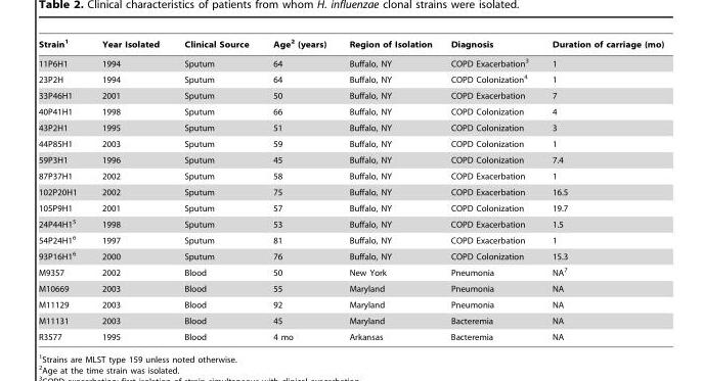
<table><thead><tr><td>Strain<sup>1</sup></td><td>Year Isolated</td><td>Clinical Source</td><td>Age<sup>2</sup> (years)</td><td>Region of Isolation</td><td>Diagnosis</td><td>Duration of carriage (mo)</td></tr></thead><tbody><tr><td>11P6H1</td><td>1994</td><td>Sputum</td><td>64</td><td>Buffalo, NY</td><td>COPD Exacerbation<sup>3</sup></td><td>1</td></tr><tr><td>23P2H</td><td>1994</td><td>Sputum</td><td>64</td><td>Buffalo, NY</td><td>COPD Colonization<sup>4</sup></td><td>1</td></tr><tr><td>33P46H1</td><td>2001</td><td>Sputum</td><td>50</td><td>Buffalo, NY</td><td>COPD Exacerbation</td><td>7</td></tr><tr><td>40P41H1</td><td>1998</td><td>Sputum</td><td>66</td><td>Buffalo, NY</td><td>COPD Colonization</td><td>4</td></tr><tr><td>43P2H1</td><td>1995</td><td>Sputum</td><td>51</td><td>Buffalo, NY</td><td>COPD Colonization</td><td>3</td></tr><tr><td>44P85H1</td><td>2003</td><td>Sputum</td><td>59</td><td>Buffalo, NY</td><td>COPD Colonization</td><td>1</td></tr><tr><td>59P3H1</td><td>1996</td><td>Sputum</td><td>45</td><td>Buffalo, NY</td><td>COPD Colonization</td><td>7.4</td></tr><tr><td>87P37H1</td><td>2002</td><td>Sputum</td><td>58</td><td>Buffalo, NY</td><td>COPD Exacerbation</td><td>1</td></tr><tr><td>102P20H1</td><td>2002</td><td>Sputum</td><td>75</td><td>Buffalo, NY</td><td>COPD Exacerbation</td><td>16.5</td></tr><tr><td>105P9H1</td><td>2001</td><td>Sputum</td><td>57</td><td>Buffalo, NY</td><td>COPD Colonization</td><td>19.7</td></tr><tr><td>24P44H1<sup>5</sup></td><td>1998</td><td>Sputum</td><td>53</td><td>Buffalo, NY</td><td>COPD Exacerbation</td><td>1.5</td></tr><tr><td>54P24H1<sup>6</sup></td><td>1997</td><td>Sputum</td><td>81</td><td>Buffalo, NY</td><td>COPD Exacerbation</td><td>1</td></tr><tr><td>93P16H1<sup>6</sup></td><td>2000</td><td>Sputum</td><td>76</td><td>Buffalo, NY</td><td>COPD Colonization</td><td>15.3</td></tr><tr><td>M9357</td><td>2002</td><td>Blood</td><td>50</td><td>New York</td><td>Pneumonia</td><td>NA<sup>7</sup></td></tr><tr><td>M10669</td><td>2003</td><td>Blood</td><td>55</td><td>Maryland</td><td>Pneumonia</td><td>NA</td></tr><tr><td>M11129</td><td>2003</td><td>Blood</td><td>92</td><td>Maryland</td><td>Pneumonia</td><td>NA</td></tr><tr><td>M11131</td><td>2003</td><td>Blood</td><td>45</td><td>Maryland</td><td>Bacteremia</td><td>NA</td></tr><tr><td>R3577</td><td>1995</td><td>Blood</td><td>4 mo</td><td>Arkansas</td><td>Bacteremia</td><td>NA</td></tr></tbody></table>